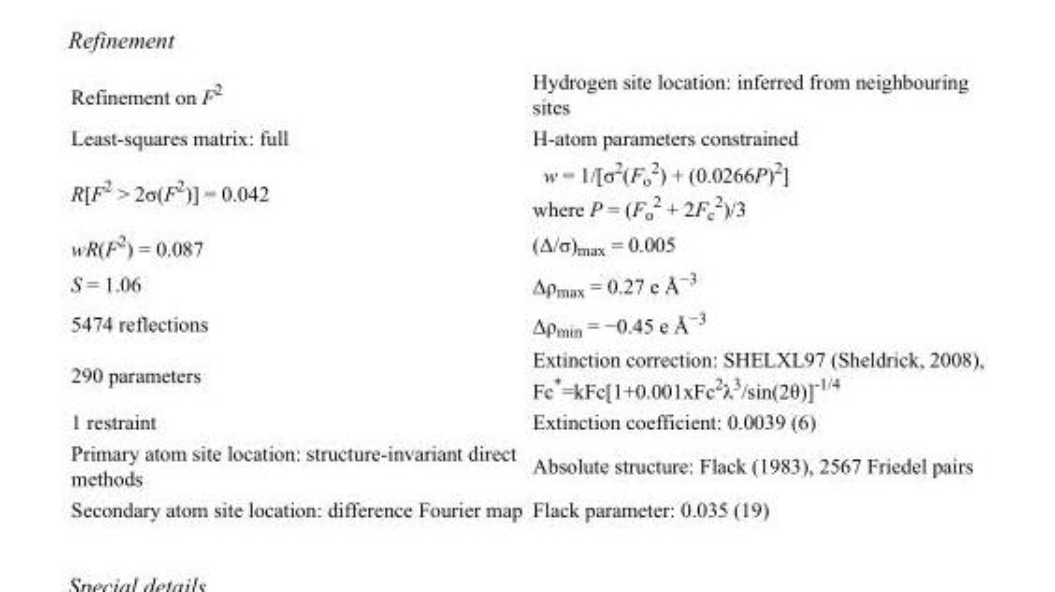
<table><tbody><tr><td>Refinement on F<sup>2</sup></td><td>Hydrogen site location: inferred from neighbouring sites</td></tr><tr><td>Least-squares matrix: full</td><td>H-atom parameters constrained</td></tr><tr><td>R[F<sup>2</sup> &gt; 2σ(F<sup>2</sup>)] = 0.042</td><td>w = 1/[σ<sup>2</sup>(F<sub>o</sub> <sup>2</sup>) + (0.0266P)<sup>2</sup>] where P = (F<sub>o</sub> <sup>2</sup> + 2F<sub>c</sub> <sup>2</sup>)/3</td></tr><tr><td>wR(F<sup>2</sup>) = 0.087</td><td>(Δ/σ)<sub>max</sub> = 0.005</td></tr><tr><td>S = 1.06</td><td>Δρ<sub>max</sub> = 0.27 e Å<sup>−3</sup></td></tr><tr><td>5474 reflections</td><td>Δρ<sub>min</sub> = −0.45 e Å<sup>−3</sup></td></tr><tr><td>290 parameters</td><td>Extinction correction: SHELXL97 (Sheldrick, 2008), Fc*=kFc[1+0.001xFc<sup>2</sup>λ<sup>3</sup>/sin(2θ)]<sup>-1/4</sup></td></tr><tr><td>1 restraint</td><td>Extinction coefficient: 0.0039 (6)</td></tr><tr><td>Primary atom site location: structure-invariant direct methods</td><td>Absolute structure: Flack (1983), 2567 Friedel pairs</td></tr><tr><td>Secondary atom site location: difference Fourier map</td><td>Flack parameter: 0.035 (19)</td></tr></tbody></table>